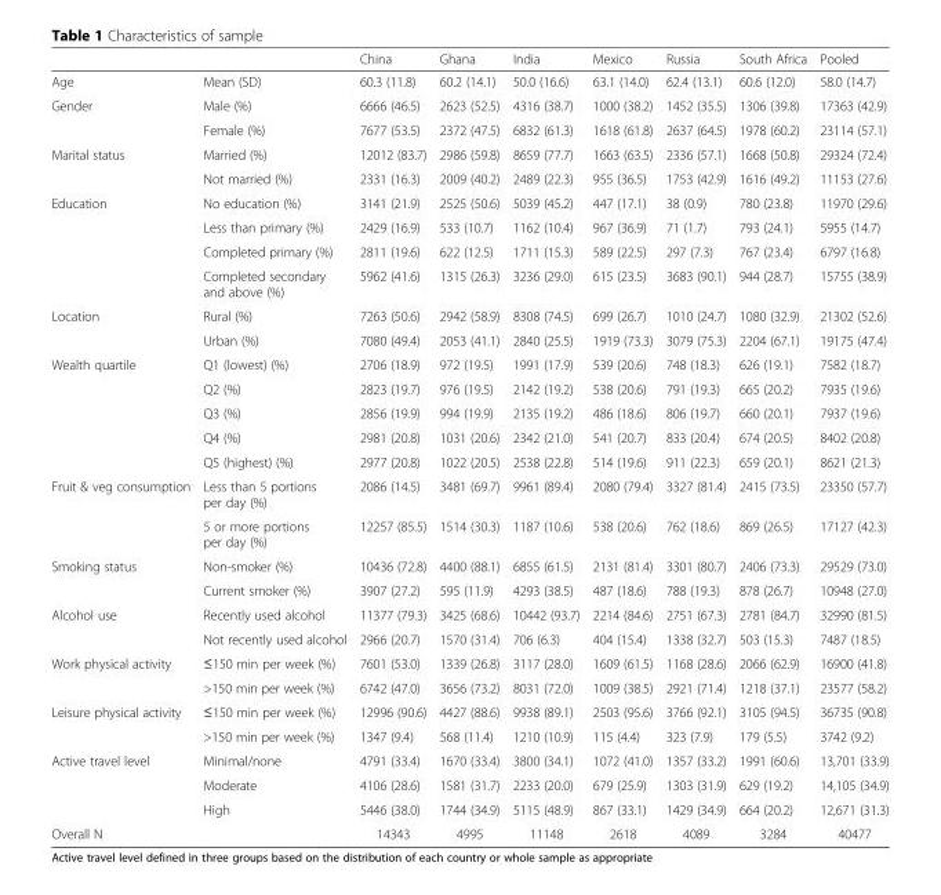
<table><thead><tr><td></td><td></td><td>China</td><td>Ghana</td><td>India</td><td>Mexico</td><td>Russia</td><td>South Africa</td><td>Pooled</td></tr></thead><tbody><tr><td>Age</td><td>Mean (SD)</td><td>60.3 (11.8)</td><td>60.2 (14.1)</td><td>50.0 (16.6)</td><td>63.1 (14.0)</td><td>62.4 (13.1)</td><td>60.6 (12.0)</td><td>58.0 (14.7)</td></tr><tr><td rowspan="2">Gender</td><td>Male (%)</td><td>6666 (46.5)</td><td>2623 (52.5)</td><td>4316 (38.7)</td><td>1000 (38.2)</td><td>1452 (35.5)</td><td>1306 (39.8)</td><td>17363 (42.9)</td></tr><tr><td>Female (%)</td><td>7677 (53.5)</td><td>2372 (47.5)</td><td>6832 (61.3)</td><td>1618 (61.8)</td><td>2637 (64.5)</td><td>1978 (60.2)</td><td>23114 (57.1)</td></tr><tr><td rowspan="2">Marital status</td><td>Married (%)</td><td>12012 (83.7)</td><td>2986 (59.8)</td><td>8659 (77.7)</td><td>1663 (63.5)</td><td>2336 (57.1)</td><td>1668 (50.8)</td><td>29324 (72.4)</td></tr><tr><td>Not married (%)</td><td>2331 (16.3)</td><td>2009 (40.2)</td><td>2489 (22.3)</td><td>955 (36.5)</td><td>1753 (42.9)</td><td>1616 (49.2)</td><td>11153 (27.6)</td></tr><tr><td rowspan="4">Education</td><td>No education (%)</td><td>3141 (21.9)</td><td>2525 (50.6)</td><td>5039 (45.2)</td><td>447 (17.1)</td><td>38 (0.9)</td><td>780 (23.8)</td><td>11970 (29.6)</td></tr><tr><td>Less than primary (%)</td><td>2429 (16.9)</td><td>533 (10.7)</td><td>1162 (10.4)</td><td>967 (36.9)</td><td>71 (1.7)</td><td>793 (24.1)</td><td>5955 (14.7)</td></tr><tr><td>Completed primary (%)</td><td>2811 (19.6)</td><td>622 (12.5)</td><td>1711 (15.3)</td><td>589 (22.5)</td><td>297 (7.3)</td><td>767 (23.4)</td><td>6797 (16.8)</td></tr><tr><td>Completed secondary and above (%)</td><td>5962 (41.6)</td><td>1315 (26.3)</td><td>3236 (29.0)</td><td>615 (23.5)</td><td>3683 (90.1)</td><td>944 (28.7)</td><td>15755 (38.9)</td></tr><tr><td rowspan="2">Location</td><td>Rural (%)</td><td>7263 (50.6)</td><td>2942 (58.9)</td><td>8308 (74.5)</td><td>699 (26.7)</td><td>1010 (24.7)</td><td>1080 (32.9)</td><td>21302 (52.6)</td></tr><tr><td>Urban (%)</td><td>7080 (49.4)</td><td>2053 (41.1)</td><td>2840 (25.5)</td><td>1919 (73.3)</td><td>3079 (75.3)</td><td>2204 (67.1)</td><td>19175 (47.4)</td></tr><tr><td rowspan="5">Wealth quartile</td><td>Q1 (lowest) (%)</td><td>2706 (18.9)</td><td>972 (19.5)</td><td>1991 (17.9)</td><td>539 (20.6)</td><td>748 (18.3)</td><td>626 (19.1)</td><td>7582 (18.7)</td></tr><tr><td>Q2 (%)</td><td>2823 (19.7)</td><td>976 (19.5)</td><td>2142 (19.2)</td><td>538 (20.6)</td><td>791 (19.3)</td><td>665 (20.2)</td><td>7935 (19.6)</td></tr><tr><td>Q3 (%)</td><td>2856 (19.9)</td><td>994 (19.9)</td><td>2135 (19.2)</td><td>486 (18.6)</td><td>806 (19.7)</td><td>660 (20.1)</td><td>7937 (19.6)</td></tr><tr><td>Q4 (%)</td><td>2981 (20.8)</td><td>1031 (20.6)</td><td>2342 (21.0)</td><td>541 (20.7)</td><td>833 (20.4)</td><td>674 (20.5)</td><td>8402 (20.8)</td></tr><tr><td>Q5 (highest) (%)</td><td>2977 (20.8)</td><td>1022 (20.5)</td><td>2538 (22.8)</td><td>514 (19.6)</td><td>911 (22.3)</td><td>659 (20.1)</td><td>8621 (21.3)</td></tr><tr><td rowspan="2">Fruit &amp; veg consumption</td><td>Less than 5 portions per day (%)</td><td>2086 (14.5)</td><td>3481 (69.7)</td><td>9961 (89.4)</td><td>2080 (79.4)</td><td>3327 (81.4)</td><td>2415 (73.5)</td><td>23350 (57.7)</td></tr><tr><td>5 or more portions per day (%)</td><td>12257 (85.5)</td><td>1514 (30.3)</td><td>1187 (10.6)</td><td>538 (20.6)</td><td>762 (18.6)</td><td>869 (26.5)</td><td>17127 (42.3)</td></tr><tr><td rowspan="2">Smoking status</td><td>Non-smoker (%)</td><td>10436 (72.8)</td><td>4400 (88.1)</td><td>6855 (61.5)</td><td>2131 (81.4)</td><td>3301 (80.7)</td><td>2406 (73.3)</td><td>29529 (73.0)</td></tr><tr><td>Current smoker (%)</td><td>3907 (27.2)</td><td>595 (11.9)</td><td>4293 (38.5)</td><td>487 (18.6)</td><td>788 (19.3)</td><td>878 (26.7)</td><td>10948 (27.0)</td></tr><tr><td rowspan="2">Alcohol use</td><td>Recently used alcohol</td><td>11377 (79.3)</td><td>3425 (68.6)</td><td>10442 (93.7)</td><td>2214 (84.6)</td><td>2751 (67.3)</td><td>2781 (84.7)</td><td>32990 (81.5)</td></tr><tr><td>Not recently used alcohol</td><td>2966 (20.7)</td><td>1570 (31.4)</td><td>706 (6.3)</td><td>404 (15.4)</td><td>1338 (32.7)</td><td>503 (15.3)</td><td>7487 (18.5)</td></tr><tr><td rowspan="2">Work physical activity</td><td>≤150 min per week (%)</td><td>7601 (53.0)</td><td>1339 (26.8)</td><td>3117 (28.0)</td><td>1609 (61.5)</td><td>1168 (28.6)</td><td>2066 (62.9)</td><td>16900 (41.8)</td></tr><tr><td>&gt;150 min per week (%)</td><td>6742 (47.0)</td><td>3656 (73.2)</td><td>8031 (72.0)</td><td>1009 (38.5)</td><td>2921 (71.4)</td><td>1218 (37.1)</td><td>23577 (58.2)</td></tr><tr><td rowspan="2">Leisure physical activity</td><td>≤150 min per week (%)</td><td>12996 (90.6)</td><td>4427 (88.6)</td><td>9938 (89.1)</td><td>2503 (95.6)</td><td>3766 (92.1)</td><td>3105 (94.5)</td><td>36735 (90.8)</td></tr><tr><td>&gt;150 min per week (%)</td><td>1347 (9.4)</td><td>568 (11.4)</td><td>1210 (10.9)</td><td>115 (4.4)</td><td>323 (7.9)</td><td>179 (5.5)</td><td>3742 (9.2)</td></tr><tr><td rowspan="3">Active travel level</td><td>Minimal/none</td><td>4791 (33.4)</td><td>1670 (33.4)</td><td>3800 (34.1)</td><td>1072 (41.0)</td><td>1357 (33.2)</td><td>1991 (60.6)</td><td>13,701 (33.9)</td></tr><tr><td>Moderate</td><td>4106 (28.6)</td><td>1581 (31.7)</td><td>2233 (20.0)</td><td>679 (25.9)</td><td>1303 (31.9)</td><td>629 (19.2)</td><td>14,105 (34.9)</td></tr><tr><td>High</td><td>5446 (38.0)</td><td>1744 (34.9)</td><td>5115 (48.9)</td><td>867 (33.1)</td><td>1429 (34.9)</td><td>664 (20.2)</td><td>12,671 (31.3)</td></tr><tr><td>Overall N</td><td></td><td>14343</td><td>4995</td><td>11148</td><td>2618</td><td>4089</td><td>3284</td><td>40477</td></tr></tbody></table>